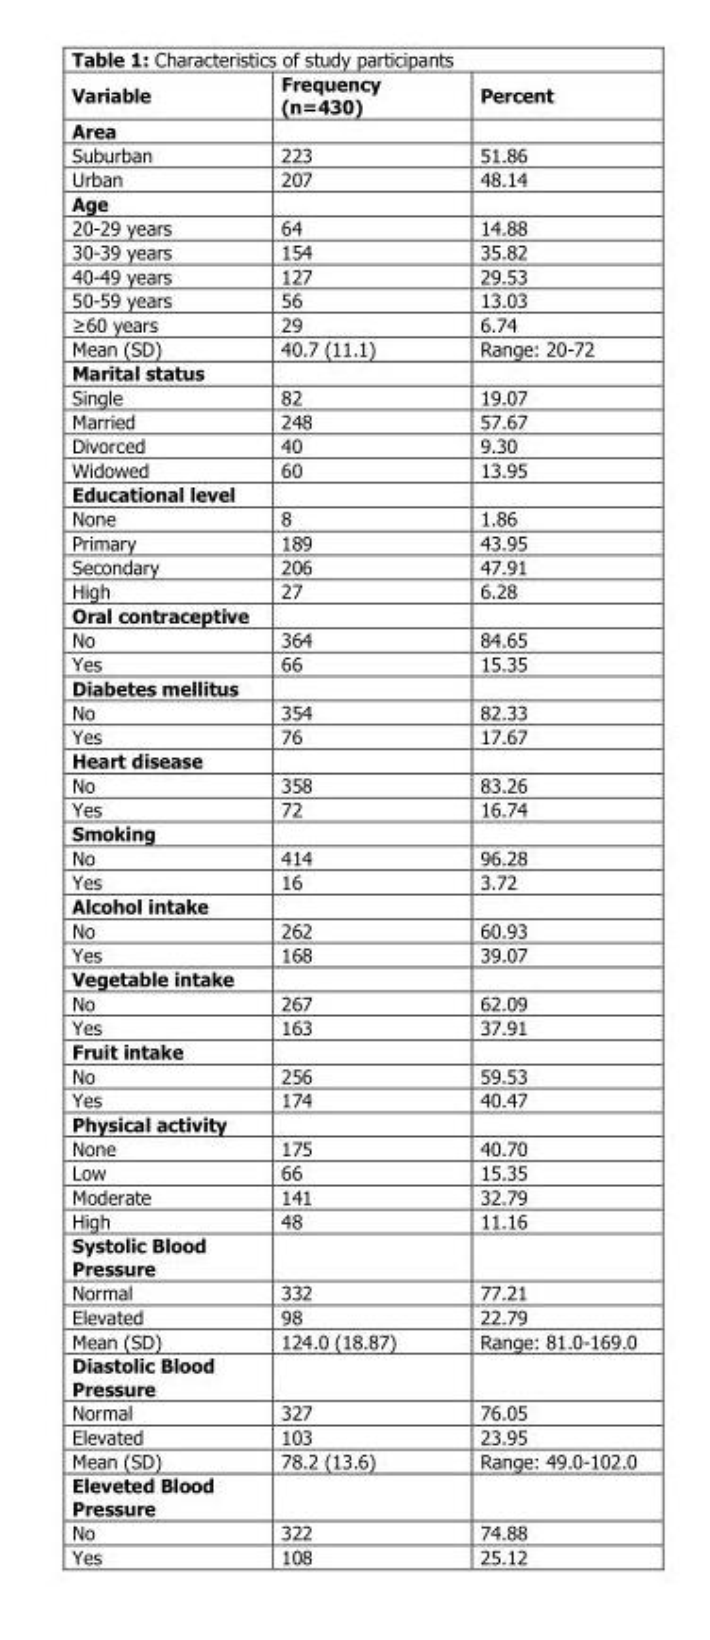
<table><thead><tr><td>Variable</td><td>Frequency (n=430)</td><td>Percent</td></tr></thead><tbody><tr><td colspan="3">Area</td></tr><tr><td>Suburban</td><td>223</td><td>51.86</td></tr><tr><td>Urban</td><td>207</td><td>48.14</td></tr><tr><td colspan="3">Age</td></tr><tr><td>20-29 years</td><td>64</td><td>14.88</td></tr><tr><td>30-39 years</td><td>154</td><td>35.82</td></tr><tr><td>40-49 years</td><td>127</td><td>29.53</td></tr><tr><td>50-59 years</td><td>56</td><td>13.03</td></tr><tr><td>≥60 years</td><td>29</td><td>6.74</td></tr><tr><td>Mean (SD)</td><td>40.7 (11.1)</td><td>Range: 20-72</td></tr><tr><td colspan="3">Marital status</td></tr><tr><td>Single</td><td>82</td><td>19.07</td></tr><tr><td>Married</td><td>248</td><td>57.67</td></tr><tr><td>Divorced</td><td>40</td><td>9.30</td></tr><tr><td>Widowed</td><td>60</td><td>13.95</td></tr><tr><td colspan="3">Educational level</td></tr><tr><td>None</td><td>8</td><td>1.86</td></tr><tr><td>Primary</td><td>189</td><td>43.95</td></tr><tr><td>Secondary</td><td>206</td><td>47.91</td></tr><tr><td>High</td><td>27</td><td>6.28</td></tr><tr><td colspan="3">Oral contraceptive</td></tr><tr><td>No</td><td>364</td><td>84.65</td></tr><tr><td>Yes</td><td>66</td><td>15.35</td></tr><tr><td colspan="3">Diabetes mellitus</td></tr><tr><td>No</td><td>354</td><td>82.33</td></tr><tr><td>Yes</td><td>76</td><td>17.67</td></tr><tr><td colspan="3">Heart disease</td></tr><tr><td>No</td><td>358</td><td>83.26</td></tr><tr><td>Yes</td><td>72</td><td>16.74</td></tr><tr><td colspan="3">Smoking</td></tr><tr><td>No</td><td>414</td><td>96.28</td></tr><tr><td>Yes</td><td>16</td><td>3.72</td></tr><tr><td colspan="3">Alcohol intake</td></tr><tr><td>No</td><td>262</td><td>60.93</td></tr><tr><td>Yes</td><td>168</td><td>39.07</td></tr><tr><td colspan="3">Vegetable intake</td></tr><tr><td>No</td><td>267</td><td>62.09</td></tr><tr><td>Yes</td><td>163</td><td>37.91</td></tr><tr><td colspan="3">Fruit intake</td></tr><tr><td>No</td><td>256</td><td>59.53</td></tr><tr><td>Yes</td><td>174</td><td>40.47</td></tr><tr><td colspan="3">Physical activity</td></tr><tr><td>None</td><td>175</td><td>40.70</td></tr><tr><td>Low</td><td>66</td><td>15.35</td></tr><tr><td>Moderate</td><td>141</td><td>32.79</td></tr><tr><td>High</td><td>48</td><td>11.16</td></tr><tr><td colspan="3">Systolic Blood Pressure</td></tr><tr><td>Normal</td><td>332</td><td>77.21</td></tr><tr><td>Elevated</td><td>98</td><td>22.79</td></tr><tr><td>Mean (SD)</td><td>124.0 (18.87)</td><td>Range: 81.0-169.0</td></tr><tr><td colspan="3">Diastolic Blood Pressure</td></tr><tr><td>Normal</td><td>327</td><td>76.05</td></tr><tr><td>Elevated</td><td>103</td><td>23.95</td></tr><tr><td>Mean (SD)</td><td>78.2 (13.6)</td><td>Range: 49.0-102.0</td></tr><tr><td colspan="3">Eleveted Blood Pressure</td></tr><tr><td>No</td><td>322</td><td>74.88</td></tr><tr><td>Yes</td><td>108</td><td>25.12</td></tr></tbody></table>